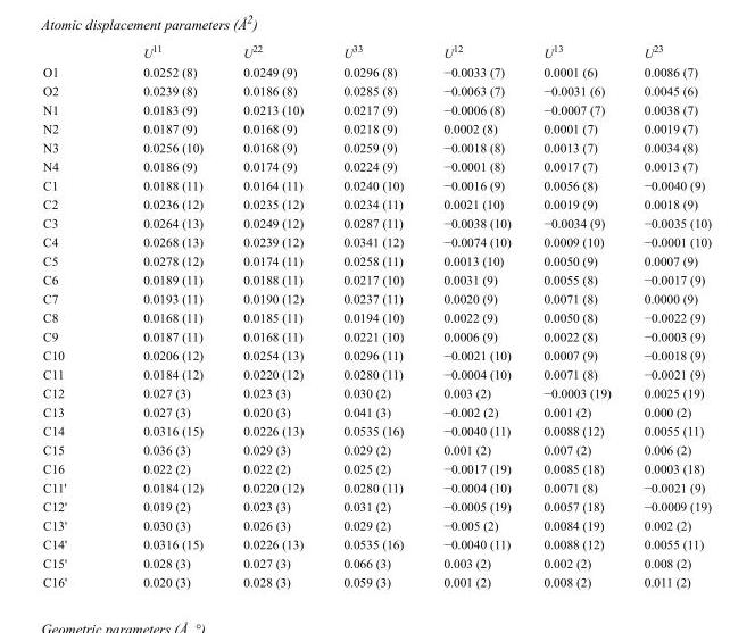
<table><thead><tr><td></td><td>U<sup>11</sup></td><td>U<sup>22</sup></td><td>U<sup>33</sup></td><td>U<sup>12</sup></td><td>U<sup>13</sup></td><td>U<sup>23</sup></td></tr></thead><tbody><tr><td>O1</td><td>0.0252 (8)</td><td>0.0249 (9)</td><td>0.0296 (8)</td><td>−0.0033 (7)</td><td>0.0001 (6)</td><td>0.0086 (7)</td></tr><tr><td>O2</td><td>0.0239 (8)</td><td>0.0186 (8)</td><td>0.0285 (8)</td><td>−0.0063 (7)</td><td>−0.0031 (6)</td><td>0.0045 (6)</td></tr><tr><td>N1</td><td>0.0183 (9)</td><td>0.0213 (10)</td><td>0.0217 (9)</td><td>−0.0006 (8)</td><td>−0.0007 (7)</td><td>0.0038 (7)</td></tr><tr><td>N2</td><td>0.0187 (9)</td><td>0.0168 (9)</td><td>0.0218 (9)</td><td>0.0002 (8)</td><td>0.0001 (7)</td><td>0.0019 (7)</td></tr><tr><td>N3</td><td>0.0256 (10)</td><td>0.0168 (9)</td><td>0.0259 (9)</td><td>−0.0018 (8)</td><td>0.0013 (7)</td><td>0.0034 (8)</td></tr><tr><td>N4</td><td>0.0186 (9)</td><td>0.0174 (9)</td><td>0.0224 (9)</td><td>−0.0001 (8)</td><td>0.0017 (7)</td><td>0.0013 (7)</td></tr><tr><td>C1</td><td>0.0188 (11)</td><td>0.0164 (11)</td><td>0.0240 (10)</td><td>−0.0016 (9)</td><td>0.0056 (8)</td><td>−0.0040 (9)</td></tr><tr><td>C2</td><td>0.0236 (12)</td><td>0.0235 (12)</td><td>0.0234 (11)</td><td>0.0021 (10)</td><td>0.0019 (9)</td><td>0.0018 (9)</td></tr><tr><td>C3</td><td>0.0264 (13)</td><td>0.0249 (12)</td><td>0.0287 (11)</td><td>−0.0038 (10)</td><td>−0.0034 (9)</td><td>−0.0035 (10)</td></tr><tr><td>C4</td><td>0.0268 (13)</td><td>0.0239 (12)</td><td>0.0341 (12)</td><td>−0.0074 (10)</td><td>0.0009 (10)</td><td>−0.0001 (10)</td></tr><tr><td>C5</td><td>0.0278 (12)</td><td>0.0174 (11)</td><td>0.0258 (11)</td><td>0.0013 (10)</td><td>0.0050 (9)</td><td>0.0007 (9)</td></tr><tr><td>C6</td><td>0.0189 (11)</td><td>0.0188 (11)</td><td>0.0217 (10)</td><td>0.0031 (9)</td><td>0.0055 (8)</td><td>−0.0017 (9)</td></tr><tr><td>C7</td><td>0.0193 (11)</td><td>0.0190 (12)</td><td>0.0237 (11)</td><td>0.0020 (9)</td><td>0.0071 (8)</td><td>0.0000 (9)</td></tr><tr><td>C8</td><td>0.0168 (11)</td><td>0.0185 (11)</td><td>0.0194 (10)</td><td>0.0022 (9)</td><td>0.0050 (8)</td><td>−0.0022 (9)</td></tr><tr><td>C9</td><td>0.0187 (11)</td><td>0.0168 (11)</td><td>0.0221 (10)</td><td>0.0006 (9)</td><td>0.0022 (8)</td><td>−0.0003 (9)</td></tr><tr><td>C10</td><td>0.0206 (12)</td><td>0.0254 (13)</td><td>0.0296 (11)</td><td>−0.0021 (10)</td><td>0.0007 (9)</td><td>−0.0018 (9)</td></tr><tr><td>C11</td><td>0.0184 (12)</td><td>0.0220 (12)</td><td>0.0280 (11)</td><td>−0.0004 (10)</td><td>0.0071 (8)</td><td>−0.0021 (9)</td></tr><tr><td>C12</td><td>0.027 (3)</td><td>0.023 (3)</td><td>0.030 (2)</td><td>0.003 (2)</td><td>−0.0003 (19)</td><td>0.0025 (19)</td></tr><tr><td>C13</td><td>0.027 (3)</td><td>0.020 (3)</td><td>0.041 (3)</td><td>−0.002 (2)</td><td>0.001 (2)</td><td>0.000 (2)</td></tr><tr><td>C14</td><td>0.0316 (15)</td><td>0.0226 (13)</td><td>0.0535 (16)</td><td>−0.0040 (11)</td><td>0.0088 (12)</td><td>0.0055 (11)</td></tr><tr><td>C15</td><td>0.036 (3)</td><td>0.029 (3)</td><td>0.029 (2)</td><td>0.001 (2)</td><td>0.007 (2)</td><td>0.006 (2)</td></tr><tr><td>C16</td><td>0.022 (2)</td><td>0.022 (2)</td><td>0.025 (2)</td><td>−0.0017 (19)</td><td>0.0085 (18)</td><td>0.0003 (18)</td></tr><tr><td>C11&#x27;</td><td>0.0184 (12)</td><td>0.0220 (12)</td><td>0.0280 (11)</td><td>−0.0004 (10)</td><td>0.0071 (8)</td><td>−0.0021 (9)</td></tr><tr><td>C12&#x27;</td><td>0.019 (2)</td><td>0.023 (3)</td><td>0.031 (2)</td><td>−0.0005 (19)</td><td>0.0057 (18)</td><td>−0.0009 (19)</td></tr><tr><td>C13&#x27;</td><td>0.030 (3)</td><td>0.026 (3)</td><td>0.029 (2)</td><td>−0.005 (2)</td><td>0.0084 (19)</td><td>0.002 (2)</td></tr><tr><td>C14&#x27;</td><td>0.0316 (15)</td><td>0.0226 (13)</td><td>0.0535 (16)</td><td>−0.0040 (11)</td><td>0.0088 (12)</td><td>0.0055 (11)</td></tr><tr><td>C15&#x27;</td><td>0.028 (3)</td><td>0.027 (3)</td><td>0.066 (3)</td><td>0.003 (2)</td><td>0.002 (2)</td><td>0.008 (2)</td></tr><tr><td>C16&#x27;</td><td>0.020 (3)</td><td>0.028 (3)</td><td>0.059 (3)</td><td>0.001 (2)</td><td>0.008 (2)</td><td>0.011 (2)</td></tr></tbody></table>